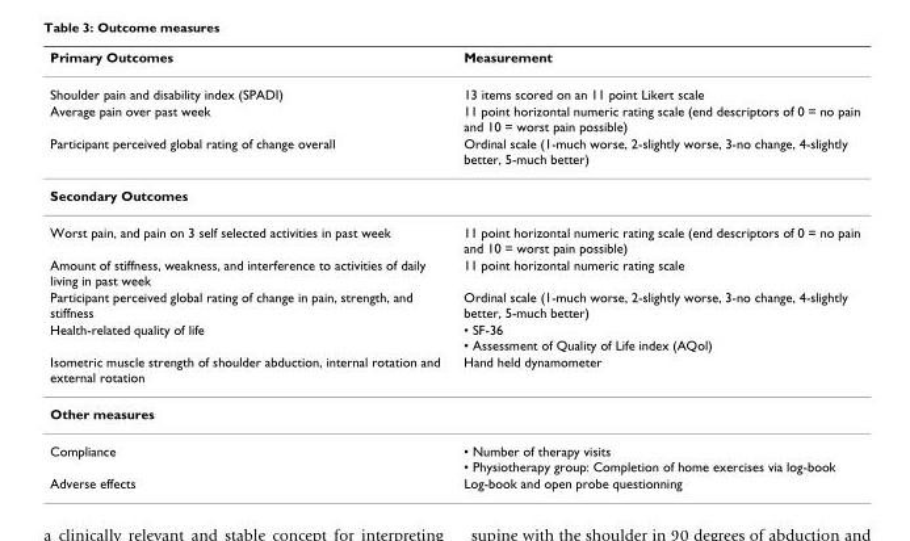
<table><thead><tr><td>Primary Outcomes</td><td>Measurement</td></tr></thead><tbody><tr><td>Shoulder pain and disability index (SPADI)</td><td>13 items scored on an 11 point Likert scale</td></tr><tr><td>Average pain over past week</td><td>11 point horizontal numeric rating scale (end descriptors of 0 = no pain and 10 = worst pain possible)</td></tr><tr><td>Participant perceived global rating of change overall</td><td>Ordinal scale (1-much worse, 2-slightly worse, 3-no change, 4-slightly better, 5-much better)</td></tr><tr><td colspan="2">Secondary Outcomes</td></tr><tr><td>Worst pain, and pain on 3 self selected activities in past week</td><td>11 point horizontal numeric rating scale (end descriptors of 0 = no pain and 10 = worst pain possible)</td></tr><tr><td>Amount of stiffness, weakness, and interference to activities of daily living in past week</td><td>11 point horizontal numeric rating scale</td></tr><tr><td>Participant perceived global rating of change in pain, strength, and stiffness</td><td>Ordinal scale (1-much worse, 2-slightly worse, 3-no change, 4-slightly better, 5-much better)</td></tr><tr><td>Health-related quality of life</td><td>• SF-36 • Assessment of Quality of Life index (AQol)</td></tr><tr><td>Isometric muscle strength of shoulder abduction, internal rotation and external rotation</td><td>Hand held dynamometer</td></tr><tr><td colspan="2">Other measures</td></tr><tr><td>Compliance</td><td>• Number of therapy visits • Physiotherapy group: Completion of home exercises via log-book</td></tr><tr><td>Adverse effects</td><td>Log-book and open probe questionning</td></tr></tbody></table>